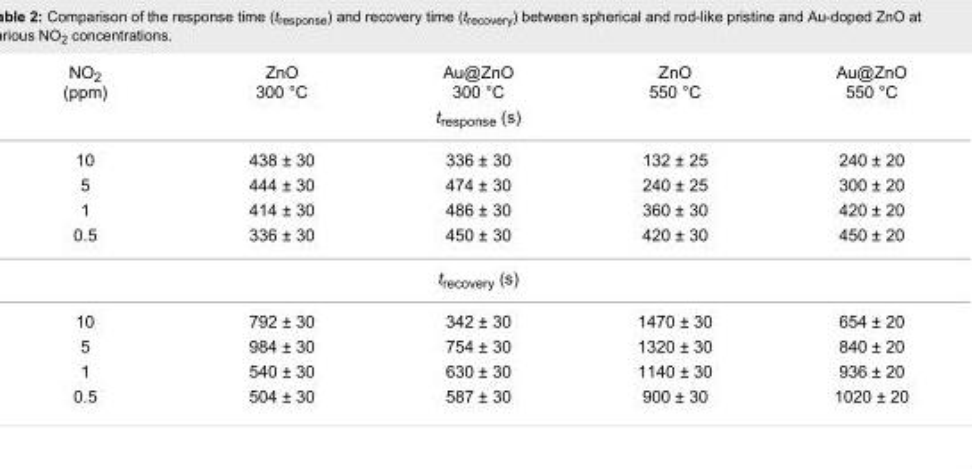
<table><tbody><tr><td>NO<sub>2</sub> (ppm)</td><td>ZnO 300 °C</td><td>Au@ZnO 300 °C</td><td>ZnO 550 °C</td><td>Au@ZnO 550 °C</td></tr><tr><td colspan="5">t<sub>response</sub> (s)</td></tr><tr><td>10</td><td>438 ± 30</td><td>336 ± 30</td><td>132 ± 25</td><td>240 ± 20</td></tr><tr><td>5</td><td>444 ± 30</td><td>474 ± 30</td><td>240 ± 25</td><td>300 ± 20</td></tr><tr><td>1</td><td>414 ± 30</td><td>486 ± 30</td><td>360 ± 30</td><td>420 ± 20</td></tr><tr><td>0.5</td><td>336 ± 30</td><td>450 ± 30</td><td>420 ± 30</td><td>450 ± 20</td></tr><tr><td colspan="5">t<sub>recovery</sub> (s)</td></tr><tr><td>10</td><td>792 ± 30</td><td>342 ± 30</td><td>1470 ± 30</td><td>654 ± 20</td></tr><tr><td>5</td><td>984 ± 30</td><td>754 ± 30</td><td>1320 ± 30</td><td>840 ± 20</td></tr><tr><td>1</td><td>540 ± 30</td><td>630 ± 30</td><td>1140 ± 30</td><td>936 ± 20</td></tr><tr><td>0.5</td><td>504 ± 30</td><td>587 ± 30</td><td>900 ± 30</td><td>1020 ± 20</td></tr></tbody></table>